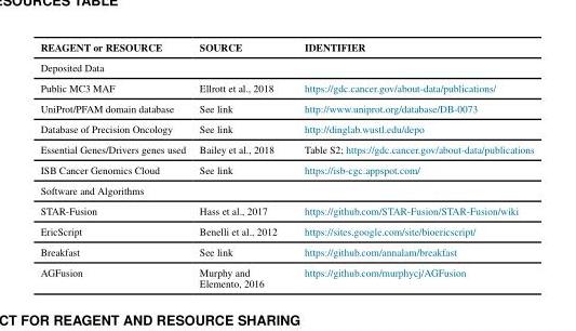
<table><thead><tr><td>REAGENT or RESOURCE</td><td>SOURCE</td><td>IDENTIFIER</td></tr></thead><tbody><tr><td colspan="3">Deposited Data</td></tr><tr><td>Public MC3 MAF</td><td>Ellrott et al., 2018</td><td>https://gdc.cancer.gov/about-data/publications/</td></tr><tr><td>UniProt/PFAM domain database</td><td>See link</td><td>http://www.uniprot.org/database/DB-0073</td></tr><tr><td>Database of Precision Oncology</td><td>See link</td><td>http://dinglab.wustl.edu/depo</td></tr><tr><td>Essential Genes/Drivers genes used</td><td>Bailey et al., 2018</td><td>Table S2; https://gdc.cancer.gov/about-data/publications</td></tr><tr><td>ISB Cancer Genomics Cloud</td><td>See link</td><td>https://isb-cgc.appspot.com/</td></tr><tr><td colspan="3">Software and Algorithms</td></tr><tr><td>STAR-Fusion</td><td>Hass et al., 2017</td><td>https://github.com/STAR-Fusion/STAR-Fusion/wiki</td></tr><tr><td>EricScript</td><td>Benelli et al., 2012</td><td>https://sites.google.com/site/bioericscript/</td></tr><tr><td>Breakfast</td><td>See link</td><td>https://github.com/annalam/breakfast</td></tr><tr><td>AGFusion</td><td>Murphy and Elemento, 2016</td><td>https://github.com/murphycj/AGFusion</td></tr></tbody></table>